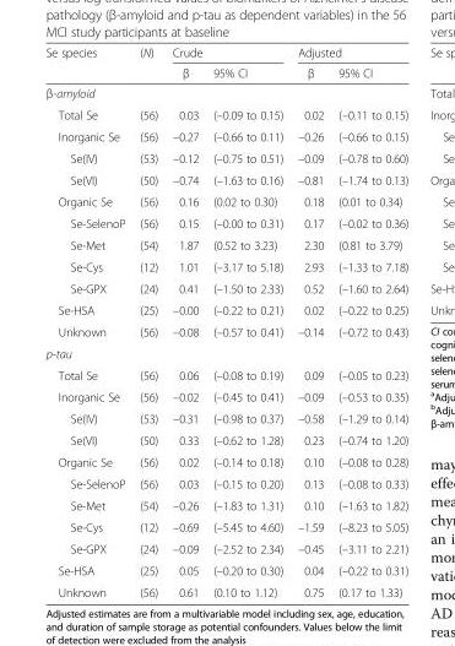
<table><thead><tr><td rowspan="2">Se species</td><td rowspan="2">(N)</td><td colspan="2">Crude</td><td colspan="2">Adjusted</td></tr><tr><td>β</td><td>95% CI</td><td>β</td><td>95% CI</td></tr></thead><tbody><tr><td colspan="6">β-amyloid</td></tr><tr><td>Total Se</td><td>(56)</td><td>0.03</td><td>(–0.09 to 0.15)</td><td>0.02</td><td>(–0.11 to 0.15)</td></tr><tr><td>Inorganic Se</td><td>(56)</td><td>–0.27</td><td>(–0.66 to 0.11)</td><td>–0.26</td><td>(–0.66 to 0.15)</td></tr><tr><td>Se(IV)</td><td>(53)</td><td>–0.12</td><td>(–0.75 to 0.51)</td><td>–0.09</td><td>(–0.78 to 0.60)</td></tr><tr><td>Se(VI)</td><td>(50)</td><td>–0.74</td><td>(–1.63 to 0.16)</td><td>–0.81</td><td>(–1.74 to 0.13)</td></tr><tr><td>Organic Se</td><td>(56)</td><td>0.16</td><td>(0.02 to 0.30)</td><td>0.18</td><td>(0.01 to 0.34)</td></tr><tr><td>Se-SelenoP</td><td>(56)</td><td>0.15</td><td>(–0.00 to 0.31)</td><td>0.17</td><td>(–0.02 to 0.36)</td></tr><tr><td>Se-Met</td><td>(54)</td><td>1.87</td><td>(0.52 to 3.23)</td><td>2.30</td><td>(0.81 to 3.79)</td></tr><tr><td>Se-Cys</td><td>(12)</td><td>1.01</td><td>(–3.17 to 5.18)</td><td>2.93</td><td>(–1.33 to 7.18)</td></tr><tr><td>Se-GPX</td><td>(24)</td><td>0.41</td><td>(–1.50 to 2.33)</td><td>0.52</td><td>(–1.60 to 2.64)</td></tr><tr><td>Se-HSA</td><td>(25)</td><td>–0.00</td><td>(–0.22 to 0.21)</td><td>0.02</td><td>(–0.22 to 0.25)</td></tr><tr><td>Unknown</td><td>(56)</td><td>–0.08</td><td>(–0.57 to 0.41)</td><td>–0.14</td><td>(–0.72 to 0.43)</td></tr><tr><td colspan="6">p-tau</td></tr><tr><td>Total Se</td><td>(56)</td><td>0.06</td><td>(–0.08 to 0.19)</td><td>0.09</td><td>(–0.05 to 0.23)</td></tr><tr><td>Inorganic Se</td><td>(56)</td><td>–0.02</td><td>(–0.45 to 0.41)</td><td>–0.09</td><td>(–0.53 to 0.35)</td></tr><tr><td>Se(IV)</td><td>(53)</td><td>–0.31</td><td>(–0.98 to 0.37)</td><td>–0.58</td><td>(–1.29 to 0.14)</td></tr><tr><td>Se(VI)</td><td>(50)</td><td>0.33</td><td>(–0.62 to 1.28)</td><td>0.23</td><td>(–0.74 to 1.20)</td></tr><tr><td>Organic Se</td><td>(56)</td><td>0.02</td><td>(–0.14 to 0.18)</td><td>0.10</td><td>(–0.08 to 0.28)</td></tr><tr><td>Se-SelenoP</td><td>(56)</td><td>0.03</td><td>(–0.15 to 0.20)</td><td>0.13</td><td>(–0.08 to 0.33)</td></tr><tr><td>Se-Met</td><td>(54)</td><td>–0.26</td><td>(–1.83 to 1.31)</td><td>0.10</td><td>(–1.63 to 1.82)</td></tr><tr><td>Se-Cys</td><td>(12)</td><td>–0.69</td><td>(–5.45 to 4.60)</td><td>–1.59</td><td>(–8.23 to 5.05)</td></tr><tr><td>Se-GPX</td><td>(24)</td><td>–0.09</td><td>(–2.52 to 2.34)</td><td>–0.45</td><td>(–3.11 to 2.21)</td></tr><tr><td>Se-HSA</td><td>(25)</td><td>0.05</td><td>(–0.20 to 0.30)</td><td>0.04</td><td>(–0.22 to 0.31)</td></tr><tr><td>Unknown</td><td>(56)</td><td>0.61</td><td>(0.10 to 1.12)</td><td>0.75</td><td>(0.17 to 1.33)</td></tr></tbody></table>